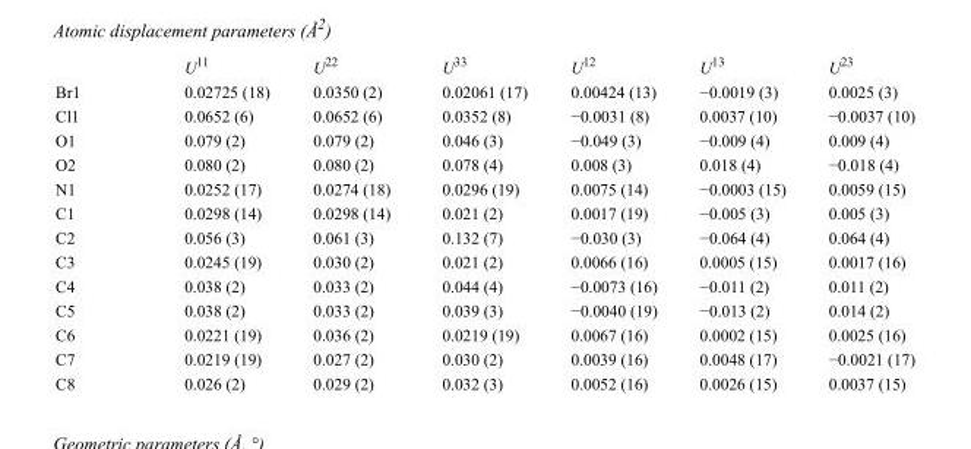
<table><thead><tr><td></td><td>U<sup>11</sup></td><td>U<sup>22</sup></td><td>U<sup>33</sup></td><td>U<sup>12</sup></td><td>U<sup>13</sup></td><td>U<sup>23</sup></td></tr></thead><tbody><tr><td>Br1</td><td>0.02725 (18)</td><td>0.0350 (2)</td><td>0.02061 (17)</td><td>0.00424 (13)</td><td>−0.0019 (3)</td><td>0.0025 (3)</td></tr><tr><td>Cl1</td><td>0.0652 (6)</td><td>0.0652 (6)</td><td>0.0352 (8)</td><td>−0.0031 (8)</td><td>0.0037 (10)</td><td>−0.0037 (10)</td></tr><tr><td>O1</td><td>0.079 (2)</td><td>0.079 (2)</td><td>0.046 (3)</td><td>−0.049 (3)</td><td>−0.009 (4)</td><td>0.009 (4)</td></tr><tr><td>O2</td><td>0.080 (2)</td><td>0.080 (2)</td><td>0.078 (4)</td><td>0.008 (3)</td><td>0.018 (4)</td><td>−0.018 (4)</td></tr><tr><td>N1</td><td>0.0252 (17)</td><td>0.0274 (18)</td><td>0.0296 (19)</td><td>0.0075 (14)</td><td>−0.0003 (15)</td><td>0.0059 (15)</td></tr><tr><td>C1</td><td>0.0298 (14)</td><td>0.0298 (14)</td><td>0.021 (2)</td><td>0.0017 (19)</td><td>−0.005 (3)</td><td>0.005 (3)</td></tr><tr><td>C2</td><td>0.056 (3)</td><td>0.061 (3)</td><td>0.132 (7)</td><td>−0.030 (3)</td><td>−0.064 (4)</td><td>0.064 (4)</td></tr><tr><td>C3</td><td>0.0245 (19)</td><td>0.030 (2)</td><td>0.021 (2)</td><td>0.0066 (16)</td><td>0.0005 (15)</td><td>0.0017 (16)</td></tr><tr><td>C4</td><td>0.038 (2)</td><td>0.033 (2)</td><td>0.044 (4)</td><td>−0.0073 (16)</td><td>−0.011 (2)</td><td>0.011 (2)</td></tr><tr><td>C5</td><td>0.038 (2)</td><td>0.033 (2)</td><td>0.039 (3)</td><td>−0.0040 (19)</td><td>−0.013 (2)</td><td>0.014 (2)</td></tr><tr><td>C6</td><td>0.0221 (19)</td><td>0.036 (2)</td><td>0.0219 (19)</td><td>0.0067 (16)</td><td>0.0002 (15)</td><td>0.0025 (16)</td></tr><tr><td>C7</td><td>0.0219 (19)</td><td>0.027 (2)</td><td>0.030 (2)</td><td>0.0039 (16)</td><td>0.0048 (17)</td><td>−0.0021 (17)</td></tr><tr><td>C8</td><td>0.026 (2)</td><td>0.029 (2)</td><td>0.032 (3)</td><td>0.0052 (16)</td><td>0.0026 (15)</td><td>0.0037 (15)</td></tr></tbody></table>